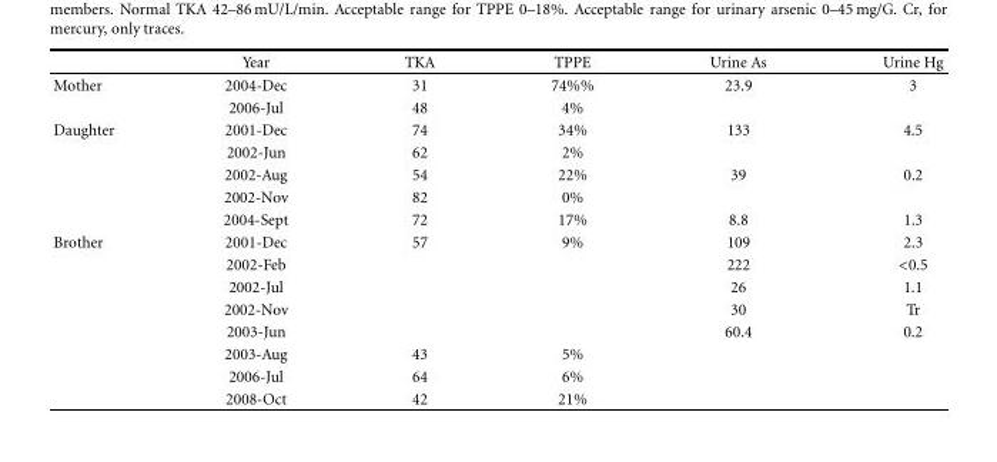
<table><thead><tr><td></td><td>Year</td><td>TKA</td><td>TPPE</td><td>Urine As</td><td>Urine Hg</td></tr></thead><tbody><tr><td rowspan="2">Mother</td><td>2004-Dec</td><td>31</td><td>74%%</td><td>23.9</td><td>3</td></tr><tr><td>2006-Jul</td><td>48</td><td>4%</td><td></td><td></td></tr><tr><td rowspan="5">Daughter</td><td>2001-Dec</td><td>74</td><td>34%</td><td>133</td><td>4.5</td></tr><tr><td>2002-Jun</td><td>62</td><td>2%</td><td></td><td></td></tr><tr><td>2002-Aug</td><td>54</td><td>22%</td><td>39</td><td>0.2</td></tr><tr><td>2002-Nov</td><td>82</td><td>0%</td><td></td><td></td></tr><tr><td>2004-Sept</td><td>72</td><td>17%</td><td>8.8</td><td>1.3</td></tr><tr><td rowspan="8">Brother</td><td>2001-Dec</td><td>57</td><td>9%</td><td>109</td><td>2.3</td></tr><tr><td>2002-Feb</td><td></td><td></td><td>222</td><td>&lt;0.5</td></tr><tr><td>2002-Jul</td><td></td><td></td><td>26</td><td>1.1</td></tr><tr><td>2002-Nov</td><td></td><td></td><td>30</td><td>Tr</td></tr><tr><td>2003-Jun</td><td></td><td></td><td>60.4</td><td>0.2</td></tr><tr><td>2003-Aug</td><td>43</td><td>5%</td><td></td><td></td></tr><tr><td>2006-Jul</td><td>64</td><td>6%</td><td></td><td></td></tr><tr><td>2008-Oct</td><td>42</td><td>21%</td><td></td><td></td></tr></tbody></table>